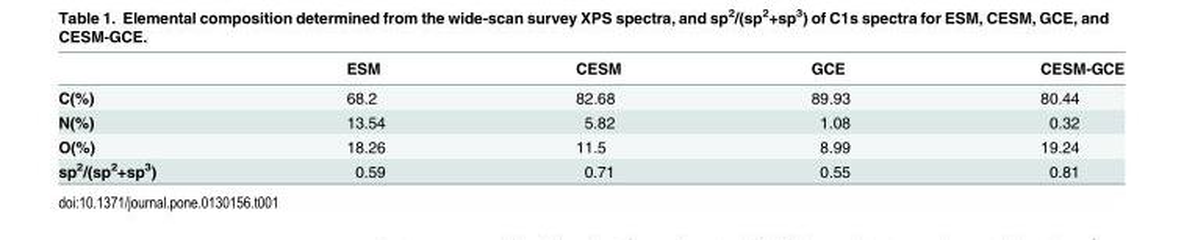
<table><thead><tr><td></td><td>ESM</td><td>CESM</td><td>GCE</td><td>CESM-GCE</td></tr></thead><tbody><tr><td>C(%)</td><td>68.2</td><td>82.68</td><td>89.93</td><td>80.44</td></tr><tr><td>N(%)</td><td>13.54</td><td>5.82</td><td>1.08</td><td>0.32</td></tr><tr><td>O(%)</td><td>18.26</td><td>11.5</td><td>8.99</td><td>19.24</td></tr><tr><td>sp<sup>2</sup>/(sp<sup>2</sup>+sp<sup>3</sup>)</td><td>0.59</td><td>0.71</td><td>0.55</td><td>0.81</td></tr></tbody></table>